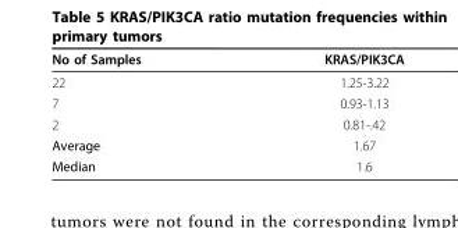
<table><thead><tr><td>No of Samples</td><td>KRAS/PIK3CA</td></tr></thead><tbody><tr><td>22</td><td>1.25-3.22</td></tr><tr><td>7</td><td>0.93-1.13</td></tr><tr><td>2</td><td>0.81-.42</td></tr><tr><td>Average</td><td>1.67</td></tr><tr><td>Median</td><td>1.6</td></tr></tbody></table>